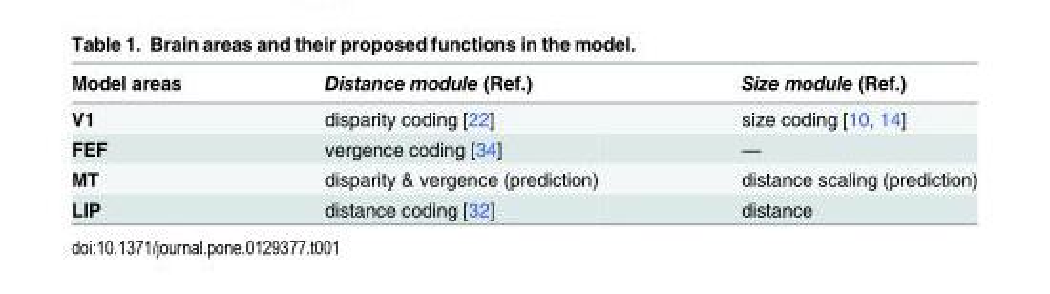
<table><thead><tr><td>Model areas</td><td>Distance module (Ref.)</td><td>Size module (Ref.)</td></tr></thead><tbody><tr><td>V1</td><td>disparity coding [22]</td><td>size coding [10, 14]</td></tr><tr><td>FEF</td><td>vergence coding [34]</td><td>—</td></tr><tr><td>MT</td><td>disparity &amp; vergence (prediction)</td><td>distance scaling (prediction)</td></tr><tr><td>LIP</td><td>distance coding [32]</td><td>distance</td></tr></tbody></table>